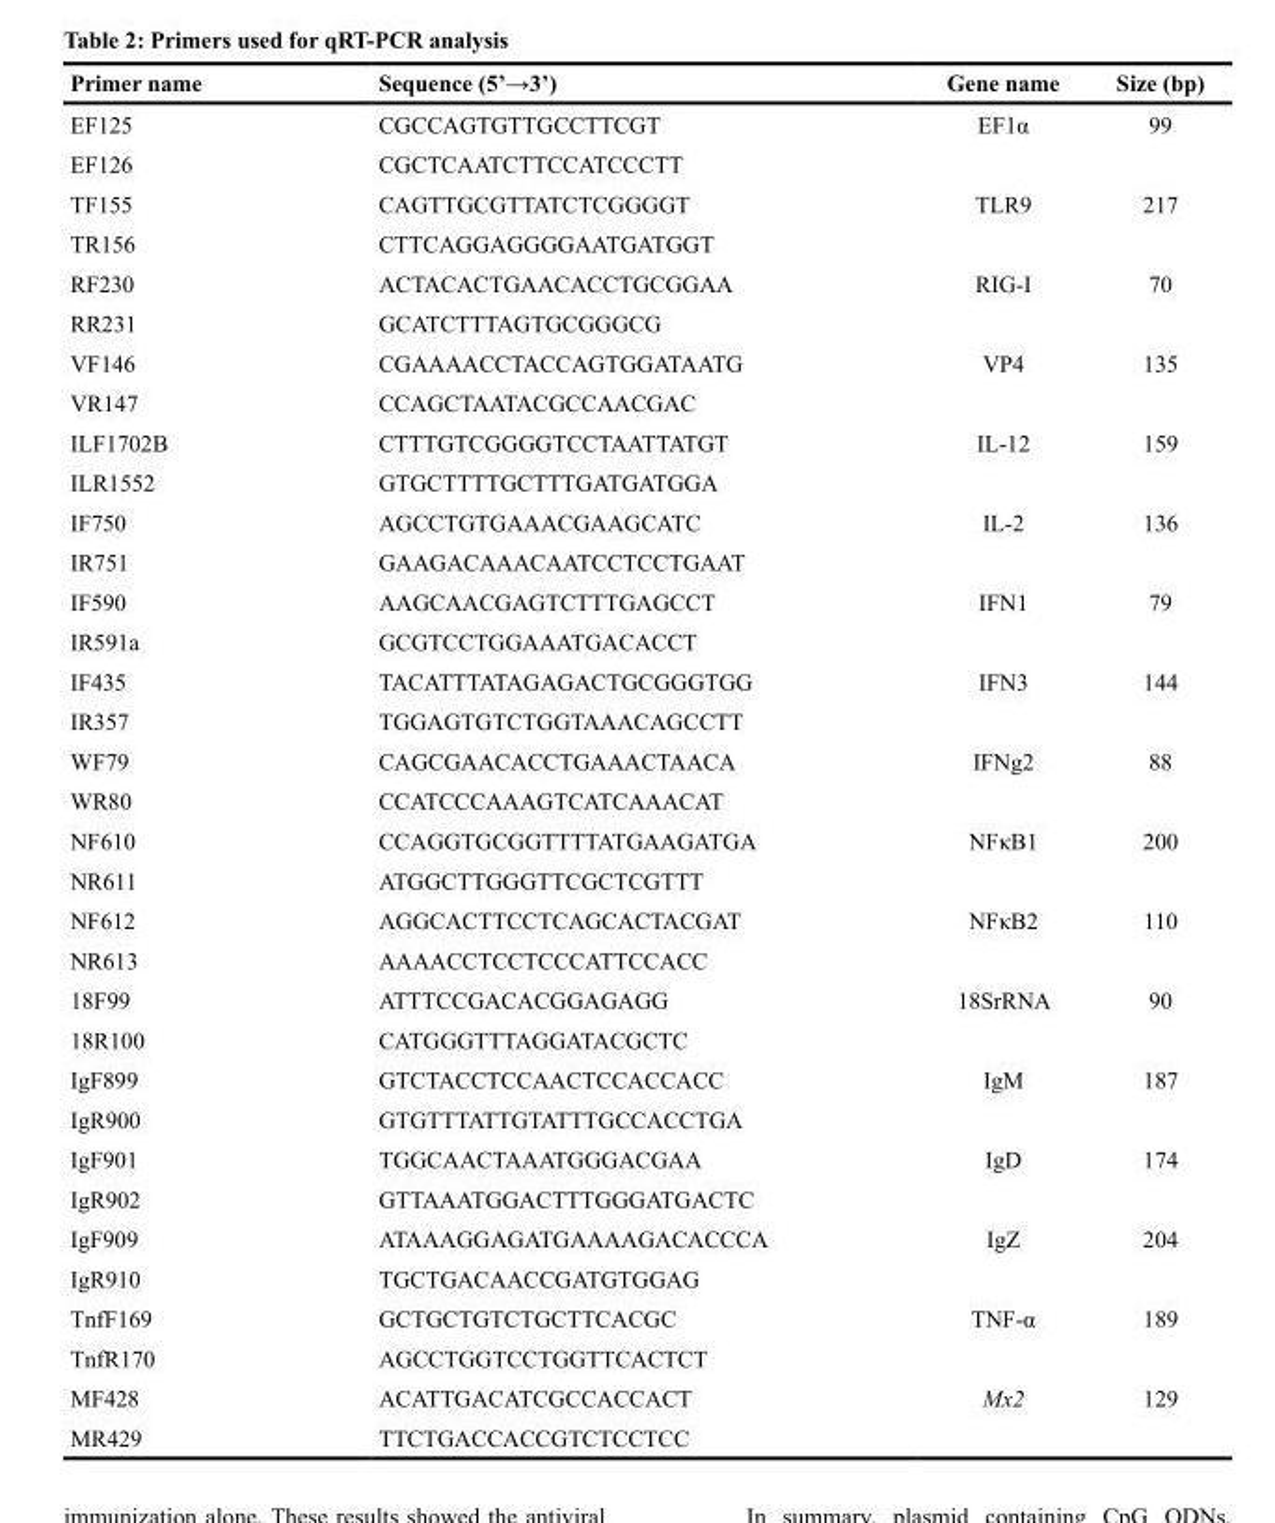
<table><thead><tr><td>Primer name</td><td>Sequence (5’→3’)</td><td>Gene name</td><td>Size (bp)</td></tr></thead><tbody><tr><td>EF125</td><td>CGCCAGTGTTGCCTTCGT</td><td>EF1α</td><td>99</td></tr><tr><td>EF126</td><td>CGCTCAATCTTCCATCCCTT</td><td></td><td></td></tr><tr><td>TF155</td><td>CAGTTGCGTTATCTCGGGGT</td><td>TLR9</td><td>217</td></tr><tr><td>TR156</td><td>CTTCAGGAGGGGAATGATGGT</td><td></td><td></td></tr><tr><td>RF230</td><td>ACTACACTGAACACCTGCGGAA</td><td>RIG-I</td><td>70</td></tr><tr><td>RR231</td><td>GCATCTTTAGTGCGGGCG</td><td></td><td></td></tr><tr><td>VF146</td><td>CGAAAACCTACCAGTGGATAATG</td><td>VP4</td><td>135</td></tr><tr><td>VR147</td><td>CCAGCTAATACGCCAACGAC</td><td></td><td></td></tr><tr><td>ILF1702B</td><td>CTTTGTCGGGGTCCTAATTATGT</td><td>IL-12</td><td>159</td></tr><tr><td>ILR1552</td><td>GTGCTTTTGCTTTGATGATGGA</td><td></td><td></td></tr><tr><td>IF750</td><td>AGCCTGTGAAACGAAGCATC</td><td>IL-2</td><td>136</td></tr><tr><td>IR751</td><td>GAAGACAAACAATCCTCCTGAAT</td><td></td><td></td></tr><tr><td>IF590</td><td>AAGCAACGAGTCTTTGAGCCT</td><td>IFN1</td><td>79</td></tr><tr><td>IR591a</td><td>GCGTCCTGGAAATGACACCT</td><td></td><td></td></tr><tr><td>IF435</td><td>TACATTTATAGAGACTGCGGGTGG</td><td>IFN3</td><td>144</td></tr><tr><td>IR357</td><td>TGGAGTGTCTGGTAAACAGCCTT</td><td></td><td></td></tr><tr><td>WF79</td><td>CAGCGAACACCTGAAACTAACA</td><td>IFNg2</td><td>88</td></tr><tr><td>WR80</td><td>CCATCCCAAAGTCATCAAACAT</td><td></td><td></td></tr><tr><td>NF610</td><td>CCAGGTGCGGTTTTATGAAGATGA</td><td>NFκB1</td><td>200</td></tr><tr><td>NR611</td><td>ATGGCTTGGGTTCGCTCGTTT</td><td></td><td></td></tr><tr><td>NF612</td><td>AGGCACTTCCTCAGCACTACGAT</td><td>NFκB2</td><td>110</td></tr><tr><td>NR613</td><td>AAAACCTCCTCCCATTCCACC</td><td></td><td></td></tr><tr><td>18F99</td><td>ATTTCCGACACGGAGAGG</td><td>18SrRNA</td><td>90</td></tr><tr><td>18R100</td><td>CATGGGTTTAGGATACGCTC</td><td></td><td></td></tr><tr><td>IgF899</td><td>GTCTACCTCCAACTCCACCACC</td><td>IgM</td><td>187</td></tr><tr><td>IgR900</td><td>GTGTTTATTGTATTTGCCACCTGA</td><td></td><td></td></tr><tr><td>IgF901</td><td>TGGCAACTAAATGGGACGAA</td><td>IgD</td><td>174</td></tr><tr><td>IgR902</td><td>GTTAAATGGACTTTGGGATGACTC</td><td></td><td></td></tr><tr><td>IgF909</td><td>ATAAAGGAGATGAAAAGACACCCA</td><td>IgZ</td><td>204</td></tr><tr><td>IgR910</td><td>TGCTGACAACCGATGTGGAG</td><td></td><td></td></tr><tr><td>TnfF169</td><td>GCTGCTGTCTGCTTCACGC</td><td>TNF-α</td><td>189</td></tr><tr><td>TnfR170</td><td>AGCCTGGTCCTGGTTCACTCT</td><td></td><td></td></tr><tr><td>MF428</td><td>ACATTGACATCGCCACCACT</td><td>Mx2</td><td>129</td></tr><tr><td>MR429</td><td>TTCTGACCACCGTCTCCTCC</td><td></td><td></td></tr></tbody></table>